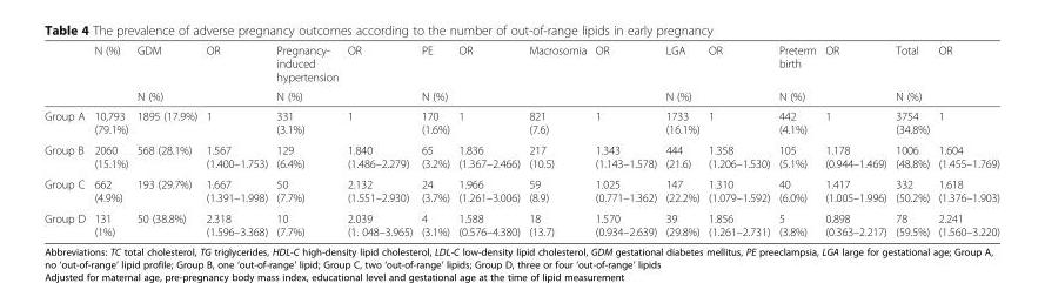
<table><thead><tr><td rowspan="2"></td><td rowspan="2">N (%)</td><td rowspan="2">GDM N (%)</td><td rowspan="2">OR</td><td rowspan="2">Pregnancy- induced hypertension N (%)</td><td rowspan="2">OR</td><td rowspan="2">PE N (%)</td><td rowspan="2">OR</td><td rowspan="2">Macrosomia</td><td rowspan="2">OR</td><td rowspan="2">LGA N (%)</td><td rowspan="2">OR</td><td rowspan="2">Preterm birth N (%)</td><td rowspan="2">OR</td><td rowspan="2">Total N (%)</td><td rowspan="2">OR</td></tr><tr></tr></thead><tbody><tr><td>Group A</td><td>10,793 (79.1%)</td><td>1895 (17.9%)</td><td>1</td><td>331 (3.1%)</td><td>1</td><td>170 (1.6%)</td><td>1</td><td>821 (7.6)</td><td>1</td><td>1733 (16.1%)</td><td>1</td><td>442 (4.1%)</td><td>1</td><td>3754 (34.8%)</td><td>1</td></tr><tr><td>Group B</td><td>2060 (15.1%)</td><td>568 (28.1%)</td><td>1.567 (1.400–1.753)</td><td>129 (6.4%)</td><td>1.840 (1.486–2.279)</td><td>65 (3.2%)</td><td>1.836 (1.367–2.466)</td><td>217 (10.5)</td><td>1.343 (1.143–1.578)</td><td>444 (21.6)</td><td>1.358 (1.206–1.530)</td><td>105 (5.1%)</td><td>1.178 (0.944–1.469)</td><td>1006 (48.8%)</td><td>1.604 (1.455–1.769)</td></tr><tr><td>Group C</td><td>662 (4.9%)</td><td>193 (29.7%)</td><td>1.667 (1.391–1.998)</td><td>50 (7.7%)</td><td>2.132 (1.551–2.930)</td><td>24 (3.7%)</td><td>1.966 (1.261–3.006)</td><td>59 (8.9)</td><td>1.025 (0.771–1.362)</td><td>147 (22.2%)</td><td>1.310 (1.079–1.592)</td><td>40 (6.0%)</td><td>1.417 (1.005–1.996)</td><td>332 (50.2%)</td><td>1.618 (1.376–1.903)</td></tr><tr><td>Group D</td><td>131 (1%)</td><td>50 (38.8%)</td><td>2.318 (1.596–3.368)</td><td>10 (7.7%)</td><td>2.039 (1. 048–3.965)</td><td>4 (3.1%)</td><td>1.588 (0.576–4.380)</td><td>18 (13.7)</td><td>1.570 (0.934–2.639)</td><td>39 (29.8%)</td><td>1.856 (1.261–2.731)</td><td>5 (3.8%)</td><td>0.898 (0.363–2.217)</td><td>78 (59.5%)</td><td>2.241 (1.560–3.220)</td></tr></tbody></table>